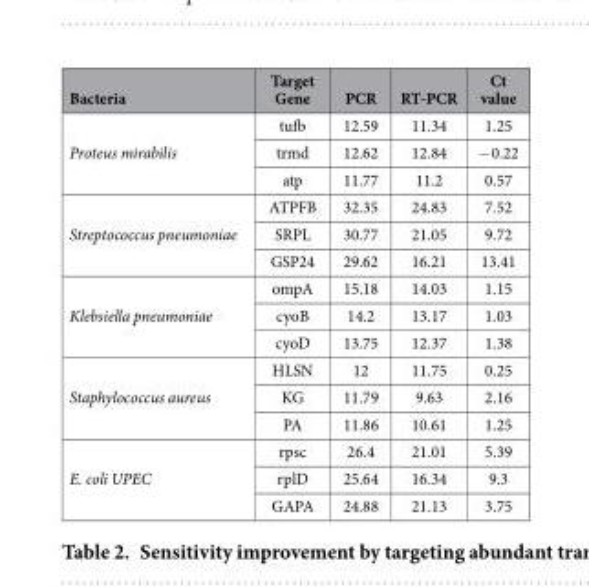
<table><thead><tr><td>Bacteria</td><td>Target Gene</td><td>PCR</td><td>RT-PCR</td><td>Ct value</td></tr></thead><tbody><tr><td rowspan="3">Proteus mirabilis</td><td>tufb</td><td>12.59</td><td>11.34</td><td>1.25</td></tr><tr><td>trmd</td><td>12.62</td><td>12.84</td><td>− 0.22</td></tr><tr><td>atp</td><td>11.77</td><td>11.2</td><td>0.57</td></tr><tr><td rowspan="3">Streptococcus pneumoniae</td><td>ATPFB</td><td>32.35</td><td>24.83</td><td>7.52</td></tr><tr><td>SRPL</td><td>30.77</td><td>21.05</td><td>9.72</td></tr><tr><td>GSP24</td><td>29.62</td><td>16.21</td><td>13.41</td></tr><tr><td rowspan="3">Klebsiella pneumoniae</td><td>ompA</td><td>15.18</td><td>14.03</td><td>1.15</td></tr><tr><td>cyoB</td><td>14.2</td><td>13.17</td><td>1.03</td></tr><tr><td>cyoD</td><td>13.75</td><td>12.37</td><td>1.38</td></tr><tr><td rowspan="3">Staphylococcus aureus</td><td>HLSN</td><td>12</td><td>11.75</td><td>0.25</td></tr><tr><td>KG</td><td>11.79</td><td>9.63</td><td>2.16</td></tr><tr><td>PA</td><td>11.86</td><td>10.61</td><td>1.25</td></tr><tr><td rowspan="3">E. coli UPEC</td><td>rpsc</td><td>26.4</td><td>21.01</td><td>5.39</td></tr><tr><td>rplD</td><td>25.64</td><td>16.34</td><td>9.3</td></tr><tr><td>GAPA</td><td>24.88</td><td>21.13</td><td>3.75</td></tr></tbody></table>